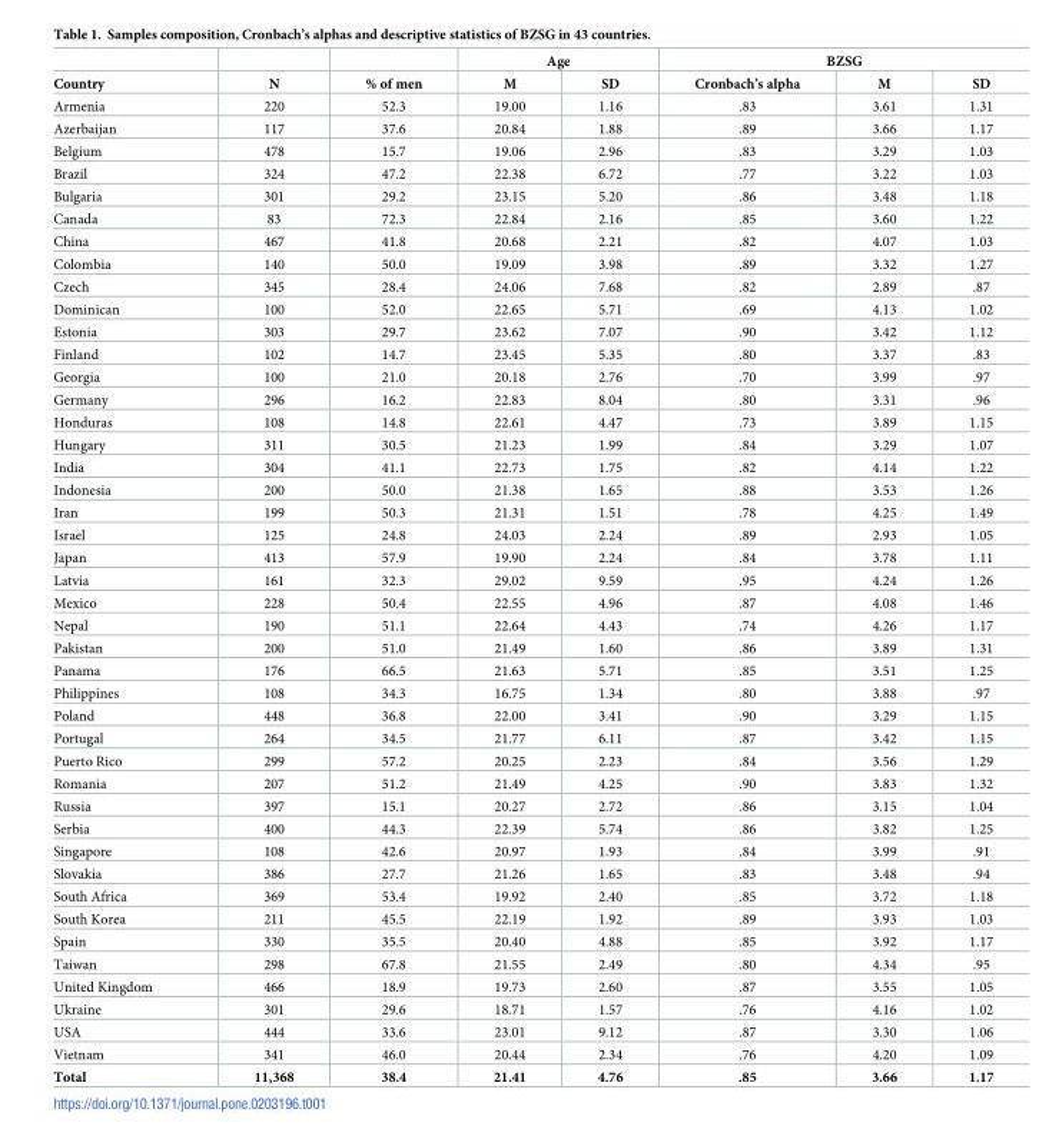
<table><thead><tr><td rowspan="2">Country</td><td rowspan="2">N</td><td rowspan="2">% of men</td><td colspan="2">Age</td><td colspan="3">BZSG</td></tr><tr><td>M</td><td>SD</td><td>Cronbach’s alpha</td><td>M</td><td>SD</td></tr></thead><tbody><tr><td>Armenia</td><td>220</td><td>52.3</td><td>19.00</td><td>1.16</td><td>.83</td><td>3.61</td><td>1.31</td></tr><tr><td>Azerbaijan</td><td>117</td><td>37.6</td><td>20.84</td><td>1.88</td><td>.89</td><td>3.66</td><td>1.17</td></tr><tr><td>Belgium</td><td>478</td><td>15.7</td><td>19.06</td><td>2.96</td><td>.83</td><td>3.29</td><td>1.03</td></tr><tr><td>Brazil</td><td>324</td><td>47.2</td><td>22.38</td><td>6.72</td><td>.77</td><td>3.22</td><td>1.03</td></tr><tr><td>Bulgaria</td><td>301</td><td>29.2</td><td>23.15</td><td>5.20</td><td>.86</td><td>3.48</td><td>1.18</td></tr><tr><td>Canada</td><td>83</td><td>72.3</td><td>22.84</td><td>2.16</td><td>.85</td><td>3.60</td><td>1.22</td></tr><tr><td>China</td><td>467</td><td>41.8</td><td>20.68</td><td>2.21</td><td>.82</td><td>4.07</td><td>1.03</td></tr><tr><td>Colombia</td><td>140</td><td>50.0</td><td>19.09</td><td>3.98</td><td>.89</td><td>3.32</td><td>1.27</td></tr><tr><td>Czech</td><td>345</td><td>28.4</td><td>24.06</td><td>7.68</td><td>.82</td><td>2.89</td><td>.87</td></tr><tr><td>Dominican</td><td>100</td><td>52.0</td><td>22.65</td><td>5.71</td><td>.69</td><td>4.13</td><td>1.02</td></tr><tr><td>Estonia</td><td>303</td><td>29.7</td><td>23.62</td><td>7.07</td><td>.90</td><td>3.42</td><td>1.12</td></tr><tr><td>Finland</td><td>102</td><td>14.7</td><td>23.45</td><td>5.35</td><td>.80</td><td>3.37</td><td>.83</td></tr><tr><td>Georgia</td><td>100</td><td>21.0</td><td>20.18</td><td>2.76</td><td>.70</td><td>3.99</td><td>.97</td></tr><tr><td>Germany</td><td>296</td><td>16.2</td><td>22.83</td><td>8.04</td><td>.80</td><td>3.31</td><td>.96</td></tr><tr><td>Honduras</td><td>108</td><td>14.8</td><td>22.61</td><td>4.47</td><td>.73</td><td>3.89</td><td>1.15</td></tr><tr><td>Hungary</td><td>311</td><td>30.5</td><td>21.23</td><td>1.99</td><td>.84</td><td>3.29</td><td>1.07</td></tr><tr><td>India</td><td>304</td><td>41.1</td><td>22.73</td><td>1.75</td><td>.82</td><td>4.14</td><td>1.22</td></tr><tr><td>Indonesia</td><td>200</td><td>50.0</td><td>21.38</td><td>1.65</td><td>.88</td><td>3.53</td><td>1.26</td></tr><tr><td>Iran</td><td>199</td><td>50.3</td><td>21.31</td><td>1.51</td><td>.78</td><td>4.25</td><td>1.49</td></tr><tr><td>Israel</td><td>125</td><td>24.8</td><td>24.03</td><td>2.24</td><td>.89</td><td>2.93</td><td>1.05</td></tr><tr><td>Japan</td><td>413</td><td>57.9</td><td>19.90</td><td>2.24</td><td>.84</td><td>3.78</td><td>1.11</td></tr><tr><td>Latvia</td><td>161</td><td>32.3</td><td>29.02</td><td>9.59</td><td>.95</td><td>4.24</td><td>1.26</td></tr><tr><td>Mexico</td><td>228</td><td>50.4</td><td>22.55</td><td>4.96</td><td>.87</td><td>4.08</td><td>1.46</td></tr><tr><td>Nepal</td><td>190</td><td>51.1</td><td>22.64</td><td>4.43</td><td>.74</td><td>4.26</td><td>1.17</td></tr><tr><td>Pakistan</td><td>200</td><td>51.0</td><td>21.49</td><td>1.60</td><td>.86</td><td>3.89</td><td>1.31</td></tr><tr><td>Panama</td><td>176</td><td>66.5</td><td>21.63</td><td>5.71</td><td>.85</td><td>3.51</td><td>1.25</td></tr><tr><td>Philippines</td><td>108</td><td>34.3</td><td>16.75</td><td>1.34</td><td>.80</td><td>3.88</td><td>.97</td></tr><tr><td>Poland</td><td>448</td><td>36.8</td><td>22.00</td><td>3.41</td><td>.90</td><td>3.29</td><td>1.15</td></tr><tr><td>Portugal</td><td>264</td><td>34.5</td><td>21.77</td><td>6.11</td><td>.87</td><td>3.42</td><td>1.15</td></tr><tr><td>Puerto Rico</td><td>299</td><td>57.2</td><td>20.25</td><td>2.23</td><td>.84</td><td>3.56</td><td>1.29</td></tr><tr><td>Romania</td><td>207</td><td>51.2</td><td>21.49</td><td>4.25</td><td>.90</td><td>3.83</td><td>1.32</td></tr><tr><td>Russia</td><td>397</td><td>15.1</td><td>20.27</td><td>2.72</td><td>.86</td><td>3.15</td><td>1.04</td></tr><tr><td>Serbia</td><td>400</td><td>44.3</td><td>22.39</td><td>5.74</td><td>.86</td><td>3.82</td><td>1.25</td></tr><tr><td>Singapore</td><td>108</td><td>42.6</td><td>20.97</td><td>1.93</td><td>.84</td><td>3.99</td><td>.91</td></tr><tr><td>Slovakia</td><td>386</td><td>27.7</td><td>21.26</td><td>1.65</td><td>.83</td><td>3.48</td><td>.94</td></tr><tr><td>South Africa</td><td>369</td><td>53.4</td><td>19.92</td><td>2.40</td><td>.85</td><td>3.72</td><td>1.18</td></tr><tr><td>South Korea</td><td>211</td><td>45.5</td><td>22.19</td><td>1.92</td><td>.89</td><td>3.93</td><td>1.03</td></tr><tr><td>Spain</td><td>330</td><td>35.5</td><td>20.40</td><td>4.88</td><td>.85</td><td>3.92</td><td>1.17</td></tr><tr><td>Taiwan</td><td>298</td><td>67.8</td><td>21.55</td><td>2.49</td><td>.80</td><td>4.34</td><td>.95</td></tr><tr><td>United Kingdom</td><td>466</td><td>18.9</td><td>19.73</td><td>2.60</td><td>.87</td><td>3.55</td><td>1.05</td></tr><tr><td>Ukraine</td><td>301</td><td>29.6</td><td>18.71</td><td>1.57</td><td>.76</td><td>4.16</td><td>1.02</td></tr><tr><td>USA</td><td>444</td><td>33.6</td><td>23.01</td><td>9.12</td><td>.87</td><td>3.30</td><td>1.06</td></tr><tr><td>Vietnam</td><td>341</td><td>46.0</td><td>20.44</td><td>2.34</td><td>.76</td><td>4.20</td><td>1.09</td></tr><tr><td>Total</td><td>11,368</td><td>38.4</td><td>21.41</td><td>4.76</td><td>.85</td><td>3.66</td><td>1.17</td></tr></tbody></table>